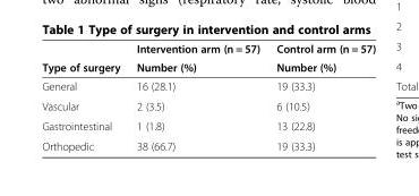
<table><thead><tr><td rowspan="2">Type of surgery</td><td rowspan="2">Intervention arm (n = 57) Number (%)</td><td rowspan="2">Control arm (n = 57) Number (%)</td></tr><tr></tr></thead><tbody><tr><td>General</td><td>16 (28.1)</td><td>19 (33.3)</td></tr><tr><td>Vascular</td><td>2 (3.5)</td><td>6 (10.5)</td></tr><tr><td>Gastrointestinal</td><td>1 (1.8)</td><td>13 (22.8)</td></tr><tr><td>Orthopedic</td><td>38 (66.7)</td><td>19 (33.3)</td></tr></tbody></table>